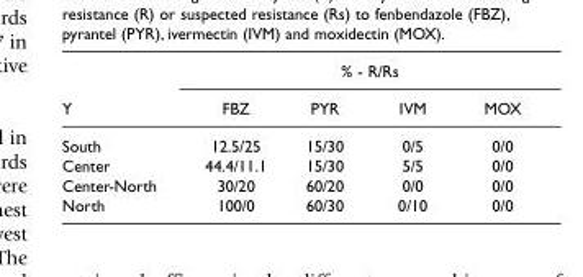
<table><thead><tr><td rowspan="2">Y</td><td colspan="4">% - R/Rs</td></tr><tr><td>FBZ</td><td>PYR</td><td>IVM</td><td>MOX</td></tr></thead><tbody><tr><td>South</td><td>12.5/25</td><td>15/30</td><td>0/5</td><td>0/0</td></tr><tr><td>Center</td><td>44.4/11.1</td><td>15/30</td><td>5/5</td><td>0/0</td></tr><tr><td>Center-North</td><td>30/20</td><td>60/20</td><td>0/0</td><td>0/0</td></tr><tr><td>North</td><td>100/0</td><td>60/30</td><td>0/10</td><td>0/0</td></tr></tbody></table>